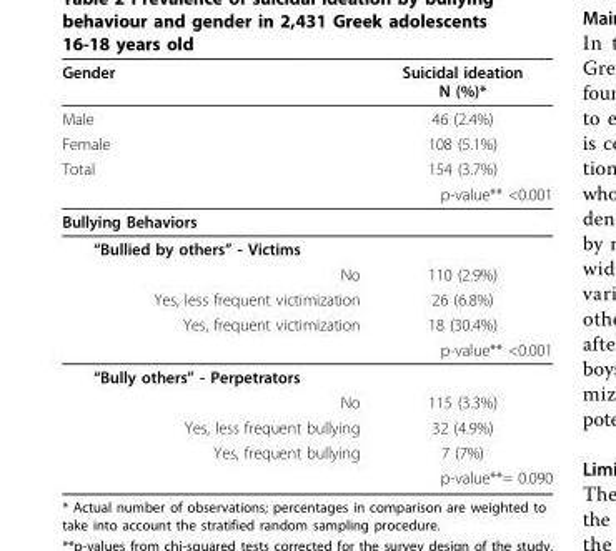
<table><thead><tr><td>Gender</td><td>Suicidal ideation N (%)*</td></tr></thead><tbody><tr><td>Male</td><td>46 (2.4%)</td></tr><tr><td>Female</td><td>108 (5.1%)</td></tr><tr><td rowspan="2">Total</td><td>154 (3.7%)</td></tr><tr><td>p-value** &lt;0.001</td></tr><tr><td colspan="2">Bullying Behaviors</td></tr><tr><td colspan="2">“Bullied by others” - Victims</td></tr><tr><td>No</td><td>110 (2.9%)</td></tr><tr><td>Yes, less frequent victimization</td><td>26 (6.8%)</td></tr><tr><td rowspan="2">Yes, frequent victimization</td><td>18 (30.4%)</td></tr><tr><td>p-value** &lt;0.001</td></tr><tr><td colspan="2">“Bully others” - Perpetrators</td></tr><tr><td>No</td><td>115 (3.3%)</td></tr><tr><td>Yes, less frequent bullying</td><td>32 (4.9%)</td></tr><tr><td rowspan="2">Yes, frequent bullying</td><td>7 (7%)</td></tr><tr><td>p-value**= 0.090</td></tr></tbody></table>